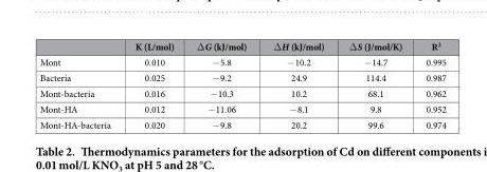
<table><thead><tr><td></td><td>K (L/mol)</td><td>Δ G (kJ/mol)</td><td>Δ H (kJ/mol)</td><td>Δ S (J/mol/K)</td><td>R<sup>2</sup></td></tr></thead><tbody><tr><td>Mont</td><td>0.010</td><td>− 5.8</td><td>− 10.2</td><td>− 14.7</td><td>0.995</td></tr><tr><td>Bacteria</td><td>0.025</td><td>− 9.2</td><td>24.9</td><td>114.4</td><td>0.987</td></tr><tr><td>Mont-bacteria</td><td>0.016</td><td>− 10.3</td><td>10.2</td><td>68.1</td><td>0.962</td></tr><tr><td>Mont-HA</td><td>0.012</td><td>− 11.06</td><td>− 8.1</td><td>9.8</td><td>0.952</td></tr><tr><td>Mont-HA-bacteria</td><td>0.020</td><td>− 9.8</td><td>20.2</td><td>99.6</td><td>0.974</td></tr></tbody></table>